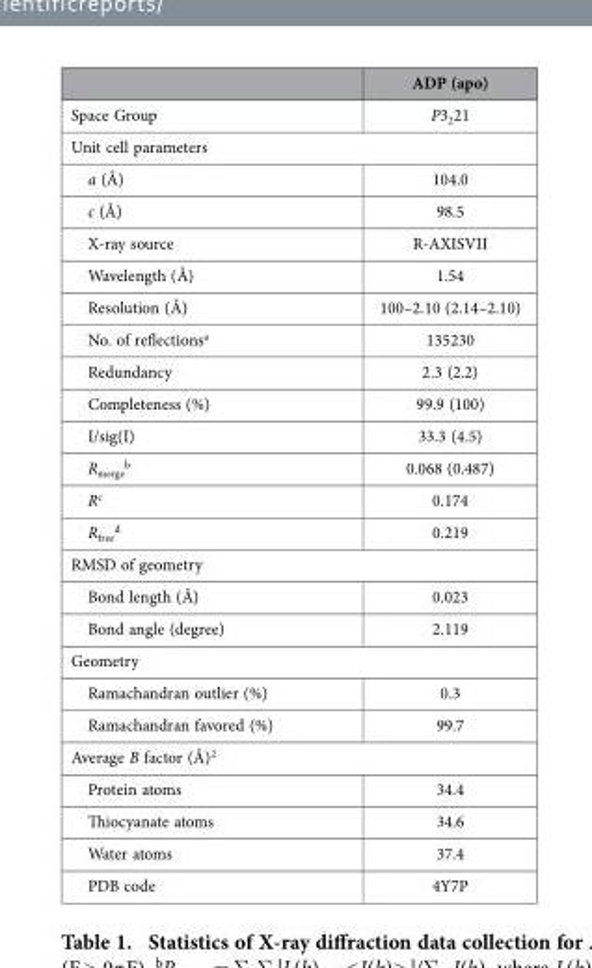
<table><thead><tr><td></td><td>ADP (apo)</td></tr></thead><tbody><tr><td>Space Group</td><td>P3<sub>2</sub>21</td></tr><tr><td colspan="2">Unit cell parameters</td></tr><tr><td>a (Å)</td><td>104.0</td></tr><tr><td>c (Å)</td><td>98.5</td></tr><tr><td>X-ray source</td><td>R-AXISVII</td></tr><tr><td>Wavelength (Å)</td><td>1.54</td></tr><tr><td>Resolution (Å)</td><td>100–2.10 (2.14–2.10)</td></tr><tr><td>No. of reflections<sup>a</sup></td><td>135230</td></tr><tr><td>Redundancy</td><td>2.3 (2.2)</td></tr><tr><td>Completeness (%)</td><td>99.9 (100)</td></tr><tr><td>I/sig(I)</td><td>33.3 (4.5)</td></tr><tr><td>R<sub>merge</sub> <sup>b</sup></td><td>0.068 (0.487)</td></tr><tr><td>R<sup>c</sup></td><td>0.174</td></tr><tr><td>R<sub>free</sub> <sup>d</sup></td><td>0.219</td></tr><tr><td colspan="2">RMSD of geometry</td></tr><tr><td>Bond length (Å)</td><td>0.023</td></tr><tr><td>Bond angle (degree)</td><td>2.119</td></tr><tr><td colspan="2">Geometry</td></tr><tr><td>Ramachandran outlier (%)</td><td>0.3</td></tr><tr><td>Ramachandran favored (%)</td><td>99.7</td></tr><tr><td colspan="2">Average B factor (Å)<sup>2</sup></td></tr><tr><td>Protein atoms</td><td>34.4</td></tr><tr><td>Thiocyanate atoms</td><td>34.6</td></tr><tr><td>Water atoms</td><td>37.4</td></tr><tr><td>PDB code</td><td>4Y7P</td></tr></tbody></table>